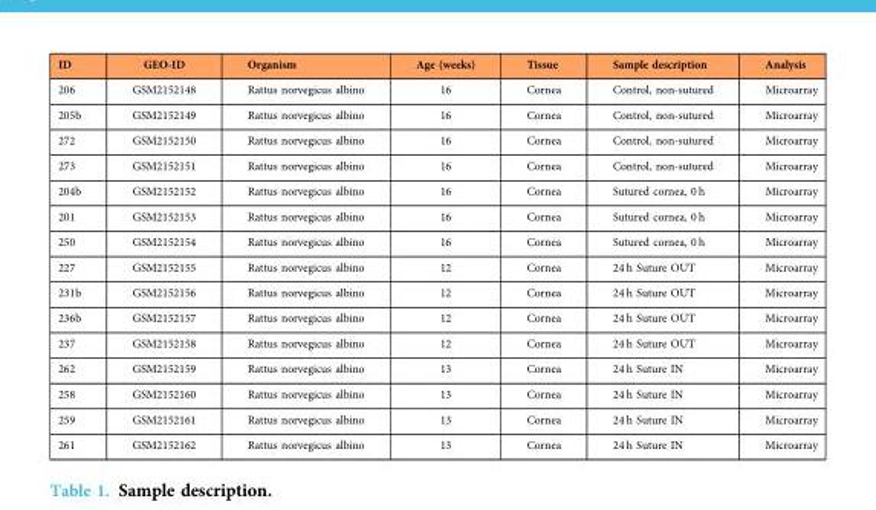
<table><thead><tr><td>ID</td><td>GEO-ID</td><td>Organism</td><td>Age (weeks)</td><td>Tissue</td><td>Sample description</td><td>Analysis</td></tr></thead><tbody><tr><td>206</td><td>GSM2152148</td><td>Rattus norvegicus albino</td><td>16</td><td>Cornea</td><td>Control, non-sutured</td><td>Microarray</td></tr><tr><td>205b</td><td>GSM2152149</td><td>Rattus norvegicus albino</td><td>16</td><td>Cornea</td><td>Control, non-sutured</td><td>Microarray</td></tr><tr><td>272</td><td>GSM2152150</td><td>Rattus norvegicus albino</td><td>16</td><td>Cornea</td><td>Control, non-sutured</td><td>Microarray</td></tr><tr><td>273</td><td>GSM2152151</td><td>Rattus norvegicus albino</td><td>16</td><td>Cornea</td><td>Control, non-sutured</td><td>Microarray</td></tr><tr><td>204b</td><td>GSM2152152</td><td>Rattus norvegicus albino</td><td>16</td><td>Cornea</td><td>Sutured cornea, 0 h</td><td>Microarray</td></tr><tr><td>201</td><td>GSM2152153</td><td>Rattus norvegicus albino</td><td>16</td><td>Cornea</td><td>Sutured cornea, 0 h</td><td>Microarray</td></tr><tr><td>250</td><td>GSM2152154</td><td>Rattus norvegicus albino</td><td>16</td><td>Cornea</td><td>Sutured cornea, 0 h</td><td>Microarray</td></tr><tr><td>227</td><td>GSM2152155</td><td>Rattus norvegicus albino</td><td>12</td><td>Cornea</td><td>24 h Suture OUT</td><td>Microarray</td></tr><tr><td>231b</td><td>GSM2152156</td><td>Rattus norvegicus albino</td><td>12</td><td>Cornea</td><td>24 h Suture OUT</td><td>Microarray</td></tr><tr><td>236b</td><td>GSM2152157</td><td>Rattus norvegicus albino</td><td>12</td><td>Cornea</td><td>24 h Suture OUT</td><td>Microarray</td></tr><tr><td>237</td><td>GSM2152158</td><td>Rattus norvegicus albino</td><td>12</td><td>Cornea</td><td>24 h Suture OUT</td><td>Microarray</td></tr><tr><td>262</td><td>GSM2152159</td><td>Rattus norvegicus albino</td><td>13</td><td>Cornea</td><td>24 h Suture IN</td><td>Microarray</td></tr><tr><td>258</td><td>GSM2152160</td><td>Rattus norvegicus albino</td><td>13</td><td>Cornea</td><td>24 h Suture IN</td><td>Microarray</td></tr><tr><td>259</td><td>GSM2152161</td><td>Rattus norvegicus albino</td><td>13</td><td>Cornea</td><td>24 h Suture IN</td><td>Microarray</td></tr><tr><td>261</td><td>GSM2152162</td><td>Rattus norvegicus albino</td><td>13</td><td>Cornea</td><td>24 h Suture IN</td><td>Microarray</td></tr></tbody></table>